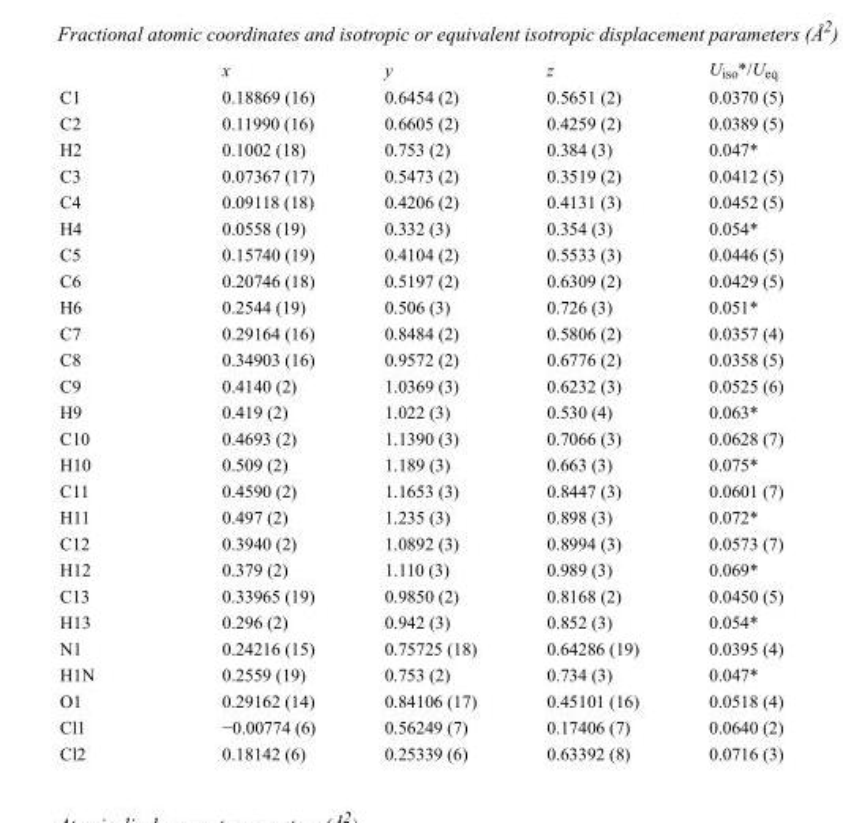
<table><thead><tr><td></td><td>x</td><td>y</td><td>z</td><td>U<sub>iso</sub>*/U<sub>eq</sub></td></tr></thead><tbody><tr><td>C1</td><td>0.18869 (16)</td><td>0.6454 (2)</td><td>0.5651 (2)</td><td>0.0370 (5)</td></tr><tr><td>C2</td><td>0.11990 (16)</td><td>0.6605 (2)</td><td>0.4259 (2)</td><td>0.0389 (5)</td></tr><tr><td>H2</td><td>0.1002 (18)</td><td>0.753 (2)</td><td>0.384 (3)</td><td>0.047*</td></tr><tr><td>C3</td><td>0.07367 (17)</td><td>0.5473 (2)</td><td>0.3519 (2)</td><td>0.0412 (5)</td></tr><tr><td>C4</td><td>0.09118 (18)</td><td>0.4206 (2)</td><td>0.4131 (3)</td><td>0.0452 (5)</td></tr><tr><td>H4</td><td>0.0558 (19)</td><td>0.332 (3)</td><td>0.354 (3)</td><td>0.054*</td></tr><tr><td>C5</td><td>0.15740 (19)</td><td>0.4104 (2)</td><td>0.5533 (3)</td><td>0.0446 (5)</td></tr><tr><td>C6</td><td>0.20746 (18)</td><td>0.5197 (2)</td><td>0.6309 (2)</td><td>0.0429 (5)</td></tr><tr><td>H6</td><td>0.2544 (19)</td><td>0.506 (3)</td><td>0.726 (3)</td><td>0.051*</td></tr><tr><td>C7</td><td>0.29164 (16)</td><td>0.8484 (2)</td><td>0.5806 (2)</td><td>0.0357 (4)</td></tr><tr><td>C8</td><td>0.34903 (16)</td><td>0.9572 (2)</td><td>0.6776 (2)</td><td>0.0358 (5)</td></tr><tr><td>C9</td><td>0.4140 (2)</td><td>1.0369 (3)</td><td>0.6232 (3)</td><td>0.0525 (6)</td></tr><tr><td>H9</td><td>0.419 (2)</td><td>1.022 (3)</td><td>0.530 (4)</td><td>0.063*</td></tr><tr><td>C10</td><td>0.4693 (2)</td><td>1.1390 (3)</td><td>0.7066 (3)</td><td>0.0628 (7)</td></tr><tr><td>H10</td><td>0.509 (2)</td><td>1.189 (3)</td><td>0.663 (3)</td><td>0.075*</td></tr><tr><td>C11</td><td>0.4590 (2)</td><td>1.1653 (3)</td><td>0.8447 (3)</td><td>0.0601 (7)</td></tr><tr><td>H11</td><td>0.497 (2)</td><td>1.235 (3)</td><td>0.898 (3)</td><td>0.072*</td></tr><tr><td>C12</td><td>0.3940 (2)</td><td>1.0892 (3)</td><td>0.8994 (3)</td><td>0.0573 (7)</td></tr><tr><td>H12</td><td>0.379 (2)</td><td>1.110 (3)</td><td>0.989 (3)</td><td>0.069*</td></tr><tr><td>C13</td><td>0.33965 (19)</td><td>0.9850 (2)</td><td>0.8168 (2)</td><td>0.0450 (5)</td></tr><tr><td>H13</td><td>0.296 (2)</td><td>0.942 (3)</td><td>0.852 (3)</td><td>0.054*</td></tr><tr><td>N1</td><td>0.24216 (15)</td><td>0.75725 (18)</td><td>0.64286 (19)</td><td>0.0395 (4)</td></tr><tr><td>H1N</td><td>0.2559 (19)</td><td>0.753 (2)</td><td>0.734 (3)</td><td>0.047*</td></tr><tr><td>O1</td><td>0.29162 (14)</td><td>0.84106 (17)</td><td>0.45101 (16)</td><td>0.0518 (4)</td></tr><tr><td>Cl1</td><td>−0.00774 (6)</td><td>0.56249 (7)</td><td>0.17406 (7)</td><td>0.0640 (2)</td></tr><tr><td>Cl2</td><td>0.18142 (6)</td><td>0.25339 (6)</td><td>0.63392 (8)</td><td>0.0716 (3)</td></tr></tbody></table>